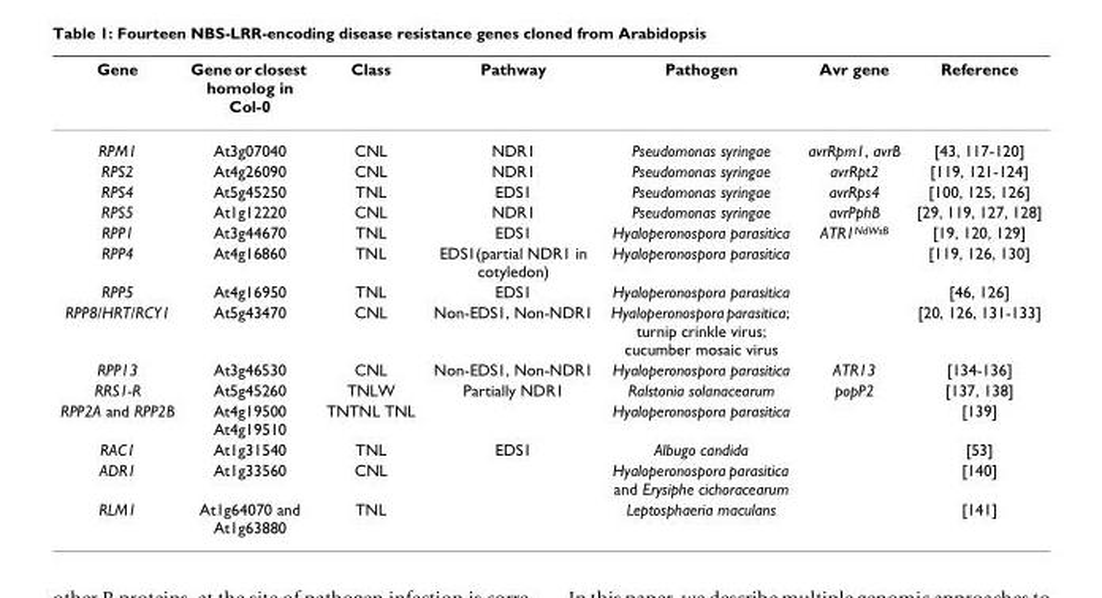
<table><thead><tr><td>Gene</td><td>Gene or closest homolog in Col-0</td><td>Class</td><td>Pathway</td><td>Pathogen</td><td>Avr gene</td><td>Reference</td></tr></thead><tbody><tr><td>RPM1</td><td>At3g07040</td><td>CNL</td><td>NDR1</td><td>Pseudomonas syringae</td><td>avrRpm1, avrB</td><td>[43, 117-120]</td></tr><tr><td>RPS2</td><td>At4g26090</td><td>CNL</td><td>NDR1</td><td>Pseudomonas syringae</td><td>avrRpt2</td><td>[119, 121-124]</td></tr><tr><td>RPS4</td><td>At5g45250</td><td>TNL</td><td>EDS1</td><td>Pseudomonas syringae</td><td>avrRps4</td><td>[100, 125, 126]</td></tr><tr><td>RPS5</td><td>At1g12220</td><td>CNL</td><td>NDR1</td><td>Pseudomonas syringae</td><td>avrPphB</td><td>[29, 119, 127, 128]</td></tr><tr><td>RPP1</td><td>At3g44670</td><td>TNL</td><td>EDS1</td><td>Hyaloperonospora parasitica</td><td>ATR1<sup>NdWsB</sup></td><td>[19, 120, 129]</td></tr><tr><td>RPP4</td><td>At4g16860</td><td>TNL</td><td>EDS1(partial NDR1 in cotyledon)</td><td>Hyaloperonospora parasitica</td><td></td><td>[119, 126, 130]</td></tr><tr><td>RPP5</td><td>At4g16950</td><td>TNL</td><td>EDS1</td><td>Hyaloperonospora parasitica</td><td></td><td>[46, 126]</td></tr><tr><td>RPP8/HRT/RCY1</td><td>At5g43470</td><td>CNL</td><td>Non-EDS1, Non-NDR1</td><td>Hyaloperonospora parasitica; turnip crinkle virus; cucumber mosaic virus</td><td></td><td>[20, 126, 131-133]</td></tr><tr><td>RPP13</td><td>At3g46530</td><td>CNL</td><td>Non-EDS1, Non-NDR1</td><td>Hyaloperonospora parasitica</td><td>ATR13</td><td>[134-136]</td></tr><tr><td>RRS1-R</td><td>At5g45260</td><td>TNLW</td><td>Partially NDR1</td><td>Ralstonia solanacearum</td><td>popP2</td><td>[137, 138]</td></tr><tr><td>RPP2A and RPP2B</td><td>At4g19500 At4g19510</td><td>TNTNL TNL</td><td></td><td>Hyaloperonospora parasitica</td><td></td><td>[139]</td></tr><tr><td>RAC1</td><td>At1g31540</td><td>TNL</td><td>EDS1</td><td>Albugo candida</td><td></td><td>[53]</td></tr><tr><td>ADR1</td><td>At1g33560</td><td>CNL</td><td></td><td>Hyaloperonospora parasitica and Erysiphe cichoracearum</td><td></td><td>[140]</td></tr><tr><td>RLM1</td><td>At1g64070 and At1g63880</td><td>TNL</td><td></td><td>Leptosphaeria maculans</td><td></td><td>[141]</td></tr></tbody></table>